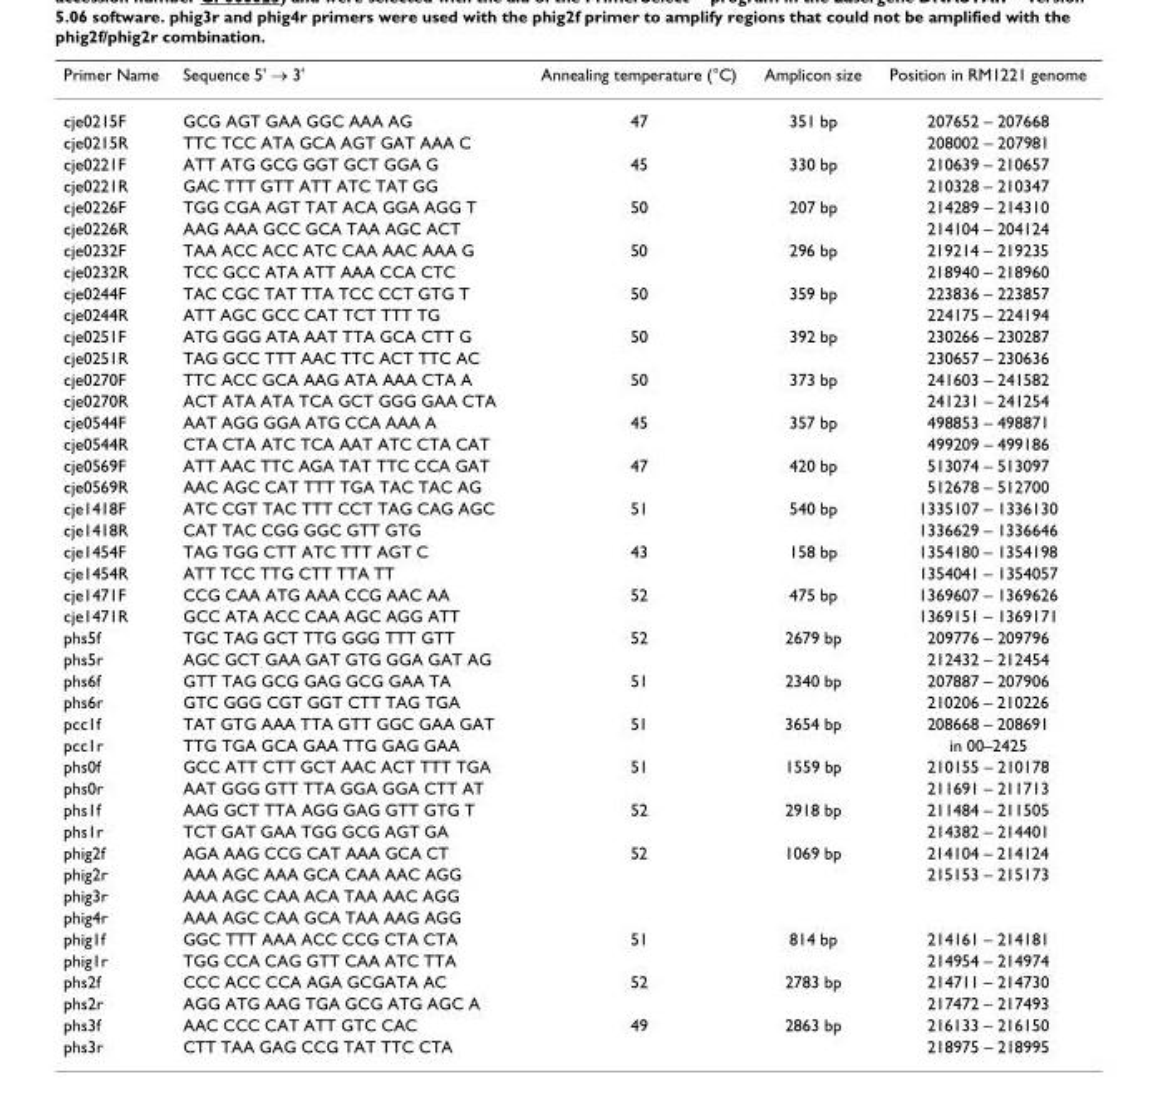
<table><thead><tr><td>Primer Name</td><td>Sequence 5&#x27; → 3&#x27;</td><td>Annealing temperature (°C)</td><td>Amplicon size</td><td>Position in RM1221 genome</td></tr></thead><tbody><tr><td>cje0215F</td><td>GCG AGT GAA GGC AAA AG</td><td>47</td><td>351 bp</td><td>207652 – 207668</td></tr><tr><td>cje0215R</td><td>TTC TCC ATA GCA AGT GAT AAA C</td><td></td><td></td><td>208002 – 207981</td></tr><tr><td>cje0221F</td><td>ATT ATG GCG GGT GCT GGA G</td><td>45</td><td>330 bp</td><td>210639 – 210657</td></tr><tr><td>cje0221R</td><td>GAC TTT GTT ATT ATC TAT GG</td><td></td><td></td><td>210328 – 210347</td></tr><tr><td>cje0226F</td><td>TGG CGA AGT TAT ACA GGA AGG T</td><td>50</td><td>207 bp</td><td>214289 – 214310</td></tr><tr><td>cje0226R</td><td>AAG AAA GCC GCA TAA AGC ACT</td><td></td><td></td><td>214104 – 204124</td></tr><tr><td>cje0232F</td><td>TAA ACC ACC ATC CAA AAC AAA G</td><td>50</td><td>296 bp</td><td>219214 – 219235</td></tr><tr><td>cje0232R</td><td>TCC GCC ATA ATT AAA CCA CTC</td><td></td><td></td><td>218940 – 218960</td></tr><tr><td>cje0244F</td><td>TAC CGC TAT TTA TCC CCT GTG T</td><td>50</td><td>359 bp</td><td>223836 – 223857</td></tr><tr><td>cje0244R</td><td>ATT AGC GCC CAT TCT TTT TG</td><td></td><td></td><td>224175 – 224194</td></tr><tr><td>cje0251F</td><td>ATG GGG ATA AAT TTA GCA CTT G</td><td>50</td><td>392 bp</td><td>230266 – 230287</td></tr><tr><td>cje0251R</td><td>TAG GCC TTT AAC TTC ACT TTC AC</td><td></td><td></td><td>230657 – 230636</td></tr><tr><td>cje0270F</td><td>TTC ACC GCA AAG ATA AAA CTA A</td><td>50</td><td>373 bp</td><td>241603 – 241582</td></tr><tr><td>cje0270R</td><td>ACT ATA ATA TCA GCT GGG GAA CTA</td><td></td><td></td><td>241231 – 241254</td></tr><tr><td>cje0544F</td><td>AAT AGG GGA ATG CCA AAA A</td><td>45</td><td>357 bp</td><td>498853 – 498871</td></tr><tr><td>cje0544R</td><td>CTA CTA ATC TCA AAT ATC CTA CAT</td><td></td><td></td><td>499209 – 499186</td></tr><tr><td>cje0569F</td><td>ATT AAC TTC AGA TAT TTC CCA GAT</td><td>47</td><td>420 bp</td><td>513074 – 513097</td></tr><tr><td>cje0569R</td><td>AAC AGC CAT TTT TGA TAC TAC AG</td><td></td><td></td><td>512678 – 512700</td></tr><tr><td>cje1418F</td><td>ATC CGT TAC TTT CCT TAG CAG AGC</td><td>51</td><td>540 bp</td><td>1335107 – 1336130</td></tr><tr><td>cje1418R</td><td>CAT TAC CGG GGC GTT GTG</td><td></td><td></td><td>1336629 – 1336646</td></tr><tr><td>cje1454F</td><td>TAG TGG CTT ATC TTT AGT C</td><td>43</td><td>158 bp</td><td>1354180 – 1354198</td></tr><tr><td>cje1454R</td><td>ATT TCC TTG CTT TTA TT</td><td></td><td></td><td>1354041 – 1354057</td></tr><tr><td>cje1471F</td><td>CCG CAA ATG AAA CCG AAC AA</td><td>52</td><td>475 bp</td><td>1369607 – 1369626</td></tr><tr><td>cje1471R</td><td>GCC ATA ACC CAA AGC AGG ATT</td><td></td><td></td><td>1369151 – 1369171</td></tr><tr><td>phs5f</td><td>TGC TAG GCT TTG GGG TTT GTT</td><td>52</td><td>2679 bp</td><td>209776 – 209796</td></tr><tr><td>phs5r</td><td>AGC GCT GAA GAT GTG GGA GAT AG</td><td></td><td></td><td>212432 – 212454</td></tr><tr><td>phs6f</td><td>GTT TAG GCG GAG GCG GAA TA</td><td>51</td><td>2340 bp</td><td>207887 – 207906</td></tr><tr><td>phs6r</td><td>GTC GGG CGT GGT CTT TAG TGA</td><td></td><td></td><td>210206 – 210226</td></tr><tr><td>pcc1f</td><td>TAT GTG AAA TTA GTT GGC GAA GAT</td><td>51</td><td>3654 bp</td><td>208668 – 208691</td></tr><tr><td>pcc1r</td><td>TTG TGA GCA GAA TTG GAG GAA</td><td></td><td></td><td>in 00–2425</td></tr><tr><td>phs0f</td><td>GCC ATT CTT GCT AAC ACT TTT TGA</td><td>51</td><td>1559 bp</td><td>210155 – 210178</td></tr><tr><td>phs0r</td><td>AAT GGG GTT TTA GGA GGA CTT AT</td><td></td><td></td><td>211691 – 211713</td></tr><tr><td>phs1f</td><td>AAG GCT TTA AGG GAG GTT GTG T</td><td>52</td><td>2918 bp</td><td>211484 – 211505</td></tr><tr><td>phs1r</td><td>TCT GAT GAA TGG GCG AGT GA</td><td></td><td></td><td>214382 – 214401</td></tr><tr><td>phig2f</td><td>AGA AAG CCG CAT AAA GCA CT</td><td>52</td><td>1069 bp</td><td>214104 – 214124</td></tr><tr><td>phig2r</td><td>AAA AGC AAA GCA CAA AAC AGG</td><td></td><td></td><td>215153 – 215173</td></tr><tr><td>phig3r</td><td>AAA AGC CAA ACA TAA AAC AGG</td><td></td><td></td><td></td></tr><tr><td>phig4r</td><td>AAA AGC CAA GCA TAA AAG AGG</td><td></td><td></td><td></td></tr><tr><td>phig1f</td><td>GGC TTT AAA ACC CCG CTA CTA</td><td>51</td><td>814 bp</td><td>214161 – 214181</td></tr><tr><td>phig1r</td><td>TGG CCA CAG GTT CAA ATC TTA</td><td></td><td></td><td>214954 – 214974</td></tr><tr><td>phs2f</td><td>CCC ACC CCA AGA GCGATA AC</td><td>52</td><td>2783 bp</td><td>214711 – 214730</td></tr><tr><td>phs2r</td><td>AGG ATG AAG TGA GCG ATG AGC A</td><td></td><td></td><td>217472 – 217493</td></tr><tr><td>phs3f</td><td>AAC CCC CAT ATT GTC CAC</td><td>49</td><td>2863 bp</td><td>216133 – 216150</td></tr><tr><td>phs3r</td><td>CTT TAA GAG CCG TAT TTC CTA</td><td></td><td></td><td>218975 – 218995</td></tr></tbody></table>